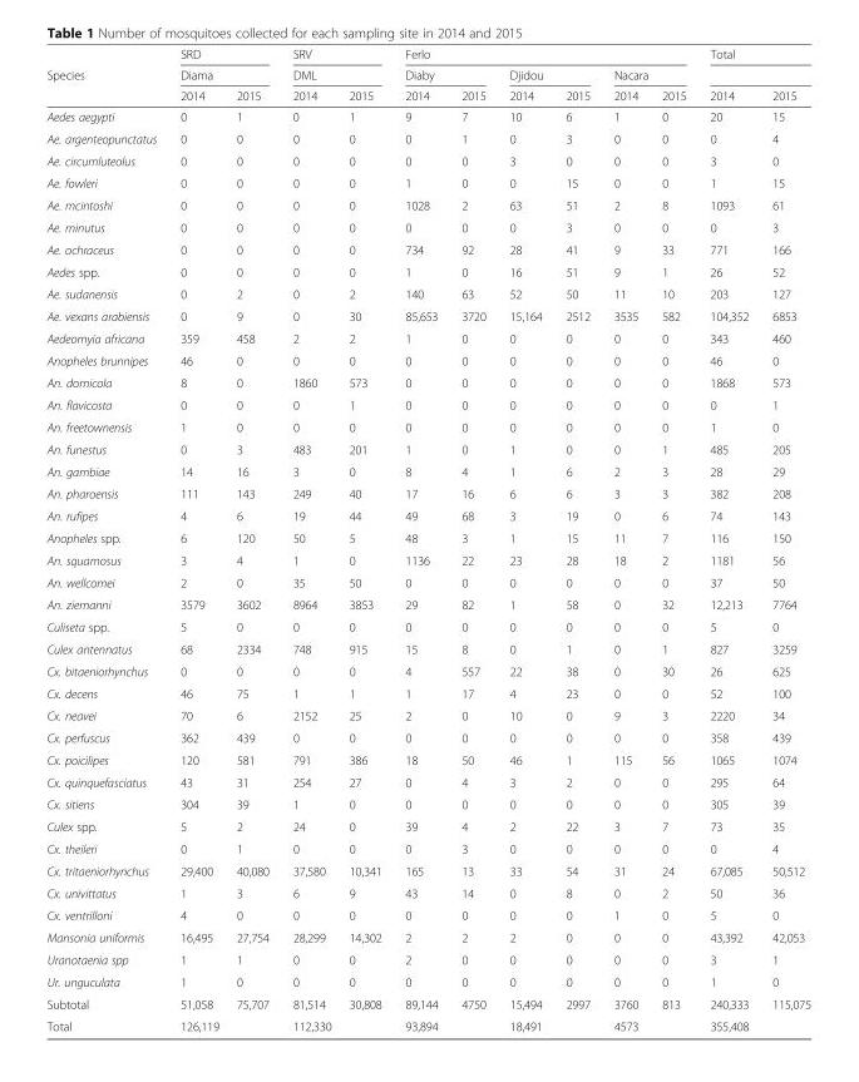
<table><thead><tr><td rowspan="3">Species</td><td rowspan="2" colspan="2">SRD Diama</td><td rowspan="2" colspan="2">SRV DML</td><td colspan="6">Ferlo</td><td colspan="2">Total</td></tr><tr><td colspan="2">Diaby</td><td colspan="2">Djidou</td><td colspan="2">Nacara</td><td rowspan="2">2014</td><td rowspan="2">2015</td></tr><tr><td>2014</td><td>2015</td><td>2014</td><td>2015</td><td>2014</td><td>2015</td><td>2014</td><td>2015</td><td>2014</td><td>2015</td></tr></thead><tbody><tr><td>Aedes aegypti</td><td>0</td><td>1</td><td>0</td><td>1</td><td>9</td><td>7</td><td>10</td><td>6</td><td>1</td><td>0</td><td>20</td><td>15</td></tr><tr><td>Ae. argenteopunctatus</td><td>0</td><td>0</td><td>0</td><td>0</td><td>0</td><td>1</td><td>0</td><td>3</td><td>0</td><td>0</td><td>0</td><td>4</td></tr><tr><td>Ae. circumluteolus</td><td>0</td><td>0</td><td>0</td><td>0</td><td>0</td><td>0</td><td>3</td><td>0</td><td>0</td><td>0</td><td>3</td><td>0</td></tr><tr><td>Ae. fowleri</td><td>0</td><td>0</td><td>0</td><td>0</td><td>1</td><td>0</td><td>0</td><td>15</td><td>0</td><td>0</td><td>1</td><td>15</td></tr><tr><td>Ae. mcintoshi</td><td>0</td><td>0</td><td>0</td><td>0</td><td>1028</td><td>2</td><td>63</td><td>51</td><td>2</td><td>8</td><td>1093</td><td>61</td></tr><tr><td>Ae. minutus</td><td>0</td><td>0</td><td>0</td><td>0</td><td>0</td><td>0</td><td>0</td><td>3</td><td>0</td><td>0</td><td>0</td><td>3</td></tr><tr><td>Ae. ochraceus</td><td>0</td><td>0</td><td>0</td><td>0</td><td>734</td><td>92</td><td>28</td><td>41</td><td>9</td><td>33</td><td>771</td><td>166</td></tr><tr><td>Aedes spp.</td><td>0</td><td>0</td><td>0</td><td>0</td><td>1</td><td>0</td><td>16</td><td>51</td><td>9</td><td>1</td><td>26</td><td>52</td></tr><tr><td>Ae. sudanensis</td><td>0</td><td>2</td><td>0</td><td>2</td><td>140</td><td>63</td><td>52</td><td>50</td><td>11</td><td>10</td><td>203</td><td>127</td></tr><tr><td>Ae. vexans arabiensis</td><td>0</td><td>9</td><td>0</td><td>30</td><td>85,653</td><td>3720</td><td>15,164</td><td>2512</td><td>3535</td><td>582</td><td>104,352</td><td>6853</td></tr><tr><td>Aedeomyia africana</td><td>359</td><td>458</td><td>2</td><td>2</td><td>1</td><td>0</td><td>0</td><td>0</td><td>0</td><td>0</td><td>343</td><td>460</td></tr><tr><td>Anopheles brunnipes</td><td>46</td><td>0</td><td>0</td><td>0</td><td>0</td><td>0</td><td>0</td><td>0</td><td>0</td><td>0</td><td>46</td><td>0</td></tr><tr><td>An. domicola</td><td>8</td><td>0</td><td>1860</td><td>573</td><td>0</td><td>0</td><td>0</td><td>0</td><td>0</td><td>0</td><td>1868</td><td>573</td></tr><tr><td>An. flavicosta</td><td>0</td><td>0</td><td>0</td><td>1</td><td>0</td><td>0</td><td>0</td><td>0</td><td>0</td><td>0</td><td>0</td><td>1</td></tr><tr><td>An. freetownensis</td><td>1</td><td>0</td><td>0</td><td>0</td><td>0</td><td>0</td><td>0</td><td>0</td><td>0</td><td>0</td><td>1</td><td>0</td></tr><tr><td>An. funestus</td><td>0</td><td>3</td><td>483</td><td>201</td><td>1</td><td>0</td><td>1</td><td>0</td><td>0</td><td>1</td><td>485</td><td>205</td></tr><tr><td>An. gambiae</td><td>14</td><td>16</td><td>3</td><td>0</td><td>8</td><td>4</td><td>1</td><td>6</td><td>2</td><td>3</td><td>28</td><td>29</td></tr><tr><td>An. pharoensis</td><td>111</td><td>143</td><td>249</td><td>40</td><td>17</td><td>16</td><td>6</td><td>6</td><td>3</td><td>3</td><td>382</td><td>208</td></tr><tr><td>An. rufipes</td><td>4</td><td>6</td><td>19</td><td>44</td><td>49</td><td>68</td><td>3</td><td>19</td><td>0</td><td>6</td><td>74</td><td>143</td></tr><tr><td>Anopheles spp.</td><td>6</td><td>120</td><td>50</td><td>5</td><td>48</td><td>3</td><td>1</td><td>15</td><td>11</td><td>7</td><td>116</td><td>150</td></tr><tr><td>An. squamosus</td><td>3</td><td>4</td><td>1</td><td>0</td><td>1136</td><td>22</td><td>23</td><td>28</td><td>18</td><td>2</td><td>1181</td><td>56</td></tr><tr><td>An. wellcomei</td><td>2</td><td>0</td><td>35</td><td>50</td><td>0</td><td>0</td><td>0</td><td>0</td><td>0</td><td>0</td><td>37</td><td>50</td></tr><tr><td>An. ziemanni</td><td>3579</td><td>3602</td><td>8964</td><td>3853</td><td>29</td><td>82</td><td>1</td><td>58</td><td>0</td><td>32</td><td>12,213</td><td>7764</td></tr><tr><td>Culiseta spp.</td><td>5</td><td>0</td><td>0</td><td>0</td><td>0</td><td>0</td><td>0</td><td>0</td><td>0</td><td>0</td><td>5</td><td>0</td></tr><tr><td>Culex antennatus</td><td>68</td><td>2334</td><td>748</td><td>915</td><td>15</td><td>8</td><td>0</td><td>1</td><td>0</td><td>1</td><td>827</td><td>3259</td></tr><tr><td>Cx. bitaeniorhynchus</td><td>0</td><td>0</td><td>0</td><td>0</td><td>4</td><td>557</td><td>22</td><td>38</td><td>0</td><td>30</td><td>26</td><td>625</td></tr><tr><td>Cx. decens</td><td>46</td><td>75</td><td>1</td><td>1</td><td>1</td><td>17</td><td>4</td><td>23</td><td>0</td><td>0</td><td>52</td><td>100</td></tr><tr><td>Cx. neavei</td><td>70</td><td>6</td><td>2152</td><td>25</td><td>2</td><td>0</td><td>10</td><td>0</td><td>9</td><td>3</td><td>2220</td><td>34</td></tr><tr><td>Cx. perfuscus</td><td>362</td><td>439</td><td>0</td><td>0</td><td>0</td><td>0</td><td>0</td><td>0</td><td>0</td><td>0</td><td>358</td><td>439</td></tr><tr><td>Cx. poicilipes</td><td>120</td><td>581</td><td>791</td><td>386</td><td>18</td><td>50</td><td>46</td><td>1</td><td>115</td><td>56</td><td>1065</td><td>1074</td></tr><tr><td>Cx. quinquefasciatus</td><td>43</td><td>31</td><td>254</td><td>27</td><td>0</td><td>4</td><td>3</td><td>2</td><td>0</td><td>0</td><td>295</td><td>64</td></tr><tr><td>Cx. sitiens</td><td>304</td><td>39</td><td>1</td><td>0</td><td>0</td><td>0</td><td>0</td><td>0</td><td>0</td><td>0</td><td>305</td><td>39</td></tr><tr><td>Culex spp.</td><td>5</td><td>2</td><td>24</td><td>0</td><td>39</td><td>4</td><td>2</td><td>22</td><td>3</td><td>7</td><td>73</td><td>35</td></tr><tr><td>Cx. theileri</td><td>0</td><td>1</td><td>0</td><td>0</td><td>0</td><td>3</td><td>0</td><td>0</td><td>0</td><td>0</td><td>0</td><td>4</td></tr><tr><td>Cx. tritaeniorhynchus</td><td>29,400</td><td>40,080</td><td>37,580</td><td>10,341</td><td>165</td><td>13</td><td>33</td><td>54</td><td>31</td><td>24</td><td>67,085</td><td>50,512</td></tr><tr><td>Cx. univittatus</td><td>1</td><td>3</td><td>6</td><td>9</td><td>43</td><td>14</td><td>0</td><td>8</td><td>0</td><td>2</td><td>50</td><td>36</td></tr><tr><td>Cx. ventrilloni</td><td>4</td><td>0</td><td>0</td><td>0</td><td>0</td><td>0</td><td>0</td><td>0</td><td>1</td><td>0</td><td>5</td><td>0</td></tr><tr><td>Mansonia uniformis</td><td>16,495</td><td>27,754</td><td>28,299</td><td>14,302</td><td>2</td><td>2</td><td>2</td><td>0</td><td>0</td><td>0</td><td>43,392</td><td>42,053</td></tr><tr><td>Uranotaenia spp</td><td>1</td><td>1</td><td>0</td><td>0</td><td>2</td><td>0</td><td>0</td><td>0</td><td>0</td><td>0</td><td>3</td><td>1</td></tr><tr><td>Ur. unguculata</td><td>1</td><td>0</td><td>0</td><td>0</td><td>0</td><td>0</td><td>0</td><td>0</td><td>0</td><td>0</td><td>1</td><td>0</td></tr><tr><td>Subtotal</td><td>51,058</td><td>75,707</td><td>81,514</td><td>30,808</td><td>89,144</td><td>4750</td><td>15,494</td><td>2997</td><td>3760</td><td>813</td><td>240,333</td><td>115,075</td></tr><tr><td>Total</td><td colspan="2">126,119</td><td colspan="2">112,330</td><td colspan="2">93,894</td><td colspan="2">18,491</td><td colspan="2">4573</td><td colspan="2">355,408</td></tr></tbody></table>